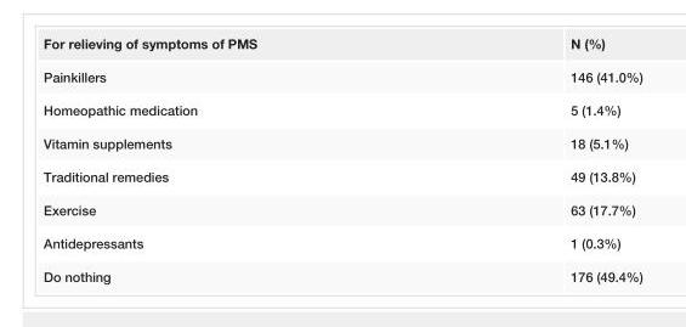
<table><tbody><tr><td>For relieving of symptoms of PMS</td><td>N (%)</td></tr><tr><td>Painkillers</td><td>146 (41.0%)</td></tr><tr><td>Homeopathic medication</td><td>5 (1.4%)</td></tr><tr><td>Vitamin supplements</td><td>18 (5.1%)</td></tr><tr><td>Traditional remedies</td><td>49 (13.8%)</td></tr><tr><td>Exercise</td><td>63 (17.7%)</td></tr><tr><td>Antidepressants</td><td>1 (0.3%)</td></tr><tr><td>Do nothing</td><td>176 (49.4%)</td></tr></tbody></table>